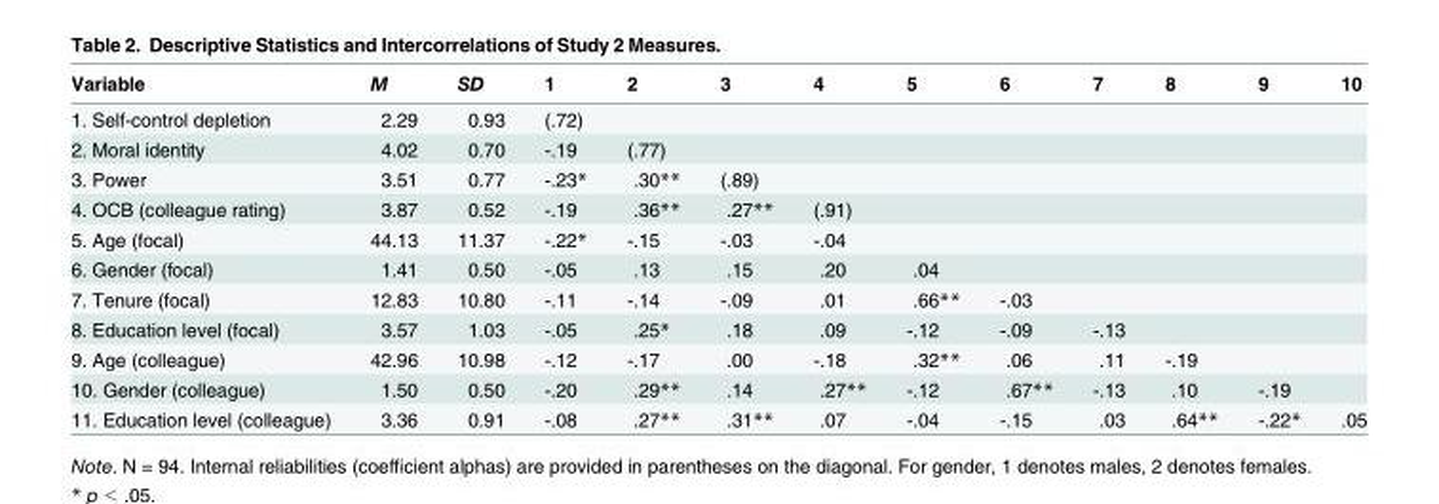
<table><thead><tr><td>Variable</td><td>M</td><td>SD</td><td>1</td><td>2</td><td>3</td><td>4</td><td>5</td><td>6</td><td>7</td><td>8</td><td>9</td><td>10</td></tr></thead><tbody><tr><td>1. Self-control depletion</td><td>2.29</td><td>0.93</td><td>(.72)</td><td></td><td></td><td></td><td></td><td></td><td></td><td></td><td></td><td></td></tr><tr><td>2. Moral identity</td><td>4.02</td><td>0.70</td><td>-.19</td><td>(.77)</td><td></td><td></td><td></td><td></td><td></td><td></td><td></td><td></td></tr><tr><td>3. Power</td><td>3.51</td><td>0.77</td><td>-.23*</td><td>.30**</td><td>(.89)</td><td></td><td></td><td></td><td></td><td></td><td></td><td></td></tr><tr><td>4. OCB (colleague rating)</td><td>3.87</td><td>0.52</td><td>-.19</td><td>.36**</td><td>.27**</td><td>(.91)</td><td></td><td></td><td></td><td></td><td></td><td></td></tr><tr><td>5. Age (focal)</td><td>44.13</td><td>11.37</td><td>-.22*</td><td>-.15</td><td>-.03</td><td>-.04</td><td></td><td></td><td></td><td></td><td></td><td></td></tr><tr><td>6. Gender (focal)</td><td>1.41</td><td>0.50</td><td>-.05</td><td>.13</td><td>.15</td><td>.20</td><td>.04</td><td></td><td></td><td></td><td></td><td></td></tr><tr><td>7. Tenure (focal)</td><td>12.83</td><td>10.80</td><td>-.11</td><td>-.14</td><td>-.09</td><td>.01</td><td>.66**</td><td>-.03</td><td></td><td></td><td></td><td></td></tr><tr><td>8. Education level (focal)</td><td>3.57</td><td>1.03</td><td>-.05</td><td>.25*</td><td>.18</td><td>.09</td><td>-.12</td><td>-.09</td><td>-.13</td><td></td><td></td><td></td></tr><tr><td>9. Age (colleague)</td><td>42.96</td><td>10.98</td><td>-.12</td><td>-.17</td><td>.00</td><td>-.18</td><td>.32**</td><td>.06</td><td>.11</td><td>-.19</td><td></td><td></td></tr><tr><td>10. Gender (colleague)</td><td>1.50</td><td>0.50</td><td>-.20</td><td>.29**</td><td>.14</td><td>.27**</td><td>-.12</td><td>.67**</td><td>-.13</td><td>.10</td><td>-.19</td><td></td></tr><tr><td>11. Education level (colleague)</td><td>3.36</td><td>0.91</td><td>-.08</td><td>.27**</td><td>.31**</td><td>.07</td><td>-.04</td><td>-.15</td><td>.03</td><td>.64**</td><td>-.22*</td><td>.05</td></tr></tbody></table>